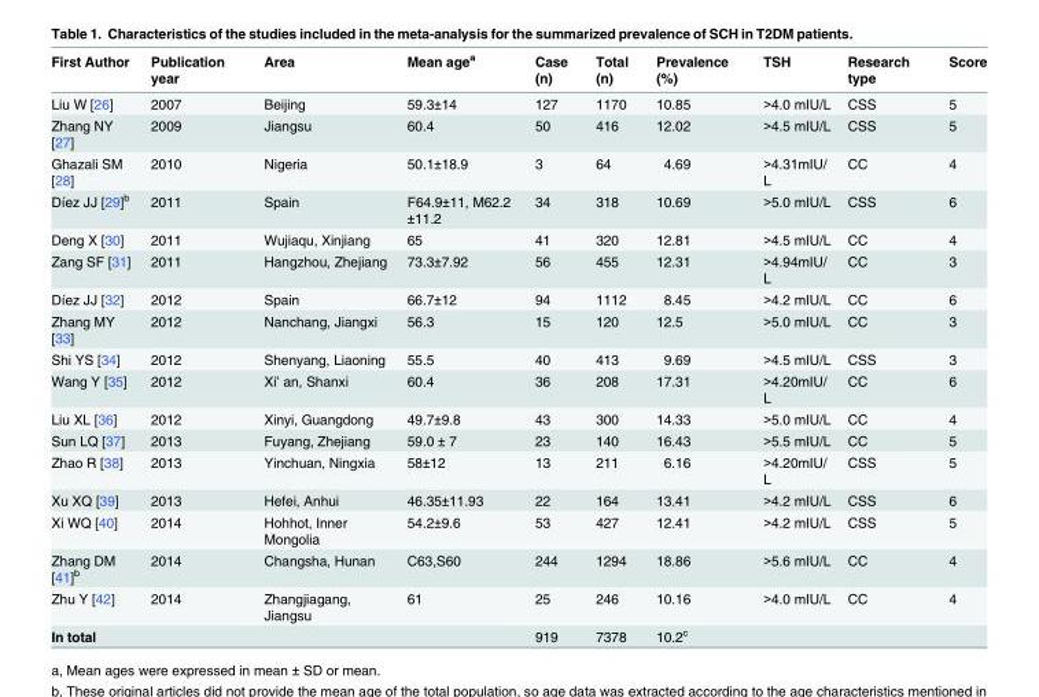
<table><thead><tr><td>First Author</td><td>Publication year</td><td>Area</td><td>Mean age<sup>a</sup></td><td>Case (n)</td><td>Total (n)</td><td>Prevalence (%)</td><td>TSH</td><td>Research type</td><td>Score</td></tr></thead><tbody><tr><td>Liu W [26]</td><td>2007</td><td>Beijing</td><td>59.3±14</td><td>127</td><td>1170</td><td>10.85</td><td>&gt;4.0 mIU/L</td><td>CSS</td><td>5</td></tr><tr><td>Zhang NY [27]</td><td>2009</td><td>Jiangsu</td><td>60.4</td><td>50</td><td>416</td><td>12.02</td><td>&gt;4.5 mIU/L</td><td>CSS</td><td>5</td></tr><tr><td>Ghazali SM [28]</td><td>2010</td><td>Nigeria</td><td>50.1±18.9</td><td>3</td><td>64</td><td>4.69</td><td>&gt;4.31mIU/ L</td><td>CC</td><td>4</td></tr><tr><td>Díez JJ [29]<sup>b</sup></td><td>2011</td><td>Spain</td><td>F64.9±11, M62.2 ±11.2</td><td>34</td><td>318</td><td>10.69</td><td>&gt;5.0 mIU/L</td><td>CSS</td><td>6</td></tr><tr><td>Deng X [30]</td><td>2011</td><td>Wujiaqu, Xinjiang</td><td>65</td><td>41</td><td>320</td><td>12.81</td><td>&gt;4.5 mIU/L</td><td>CC</td><td>4</td></tr><tr><td>Zang SF [31]</td><td>2011</td><td>Hangzhou, Zhejiang</td><td>73.3±7.92</td><td>56</td><td>455</td><td>12.31</td><td>&gt;4.94mIU/ L</td><td>CC</td><td>3</td></tr><tr><td>Díez JJ [32]</td><td>2012</td><td>Spain</td><td>66.7±12</td><td>94</td><td>1112</td><td>8.45</td><td>&gt;4.2 mIU/L</td><td>CC</td><td>6</td></tr><tr><td>Zhang MY [33]</td><td>2012</td><td>Nanchang, Jiangxi</td><td>56.3</td><td>15</td><td>120</td><td>12.5</td><td>&gt;5.0 mIU/L</td><td>CC</td><td>3</td></tr><tr><td>Shi YS [34]</td><td>2012</td><td>Shenyang, Liaoning</td><td>55.5</td><td>40</td><td>413</td><td>9.69</td><td>&gt;4.5 mIU/L</td><td>CSS</td><td>3</td></tr><tr><td>Wang Y [35]</td><td>2012</td><td>Xi’ an, Shanxi</td><td>60.4</td><td>36</td><td>208</td><td>17.31</td><td>&gt;4.20mIU/ L</td><td>CC</td><td>6</td></tr><tr><td>Liu XL [36]</td><td>2012</td><td>Xinyi, Guangdong</td><td>49.7±9.8</td><td>43</td><td>300</td><td>14.33</td><td>&gt;5.0 mIU/L</td><td>CC</td><td>4</td></tr><tr><td>Sun LQ [37]</td><td>2013</td><td>Fuyang, Zhejiang</td><td>59.0 ± 7</td><td>23</td><td>140</td><td>16.43</td><td>&gt;5.5 mIU/L</td><td>CC</td><td>5</td></tr><tr><td>Zhao R [38]</td><td>2013</td><td>Yinchuan, Ningxia</td><td>58±12</td><td>13</td><td>211</td><td>6.16</td><td>&gt;4.20mIU/ L</td><td>CSS</td><td>5</td></tr><tr><td>Xu XQ [39]</td><td>2013</td><td>Hefei, Anhui</td><td>46.35±11.93</td><td>22</td><td>164</td><td>13.41</td><td>&gt;4.2 mIU/L</td><td>CSS</td><td>6</td></tr><tr><td>Xi WQ [40]</td><td>2014</td><td>Hohhot, Inner Mongolia</td><td>54.2±9.6</td><td>53</td><td>427</td><td>12.41</td><td>&gt;4.2 mIU/L</td><td>CSS</td><td>5</td></tr><tr><td>Zhang DM [41]<sup>b</sup></td><td>2014</td><td>Changsha, Hunan</td><td>C63,S60</td><td>244</td><td>1294</td><td>18.86</td><td>&gt;5.6 mIU/L</td><td>CC</td><td>4</td></tr><tr><td>Zhu Y [42]</td><td>2014</td><td>Zhangjiagang, Jiangsu</td><td>61</td><td>25</td><td>246</td><td>10.16</td><td>&gt;4.0 mIU/L</td><td>CC</td><td>4</td></tr><tr><td>In total</td><td></td><td></td><td></td><td>919</td><td>7378</td><td>10.2<sup>c</sup></td><td></td><td></td><td></td></tr></tbody></table>